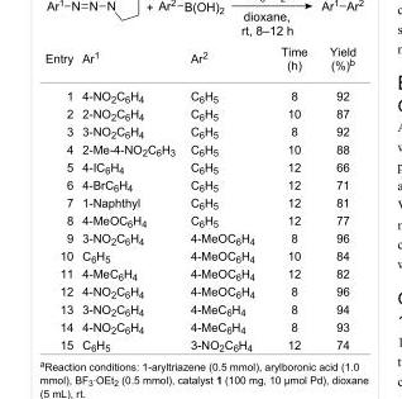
<table><tbody><tr><td>Entry</td><td>Ar<sup>1</sup></td><td>Ar<sup>2</sup></td><td>Time (h)</td><td>Yield (%)<sup>b</sup></td></tr><tr><td>1</td><td>4-NO<sub>2</sub>C<sub>6</sub>H<sub>4</sub></td><td>C<sub>6</sub>H<sub>5</sub></td><td>8</td><td>92</td></tr><tr><td>2</td><td>2-NO<sub>2</sub>C<sub>6</sub>H<sub>4</sub></td><td>C<sub>6</sub>H<sub>5</sub></td><td>10</td><td>87</td></tr><tr><td>3</td><td>3-NO<sub>2</sub>C<sub>6</sub>H<sub>4</sub></td><td>C<sub>6</sub>H<sub>5</sub></td><td>8</td><td>92</td></tr><tr><td>4</td><td>2-Me-4-NO<sub>2</sub>C<sub>6</sub>H<sub>3</sub></td><td>C<sub>6</sub>H<sub>5</sub></td><td>10</td><td>88</td></tr><tr><td>5</td><td>4-IC<sub>6</sub>H<sub>4</sub></td><td>C<sub>6</sub>H<sub>5</sub></td><td>12</td><td>66</td></tr><tr><td>6</td><td>4-BrC<sub>6</sub>H<sub>4</sub></td><td>C<sub>6</sub>H<sub>5</sub></td><td>12</td><td>71</td></tr><tr><td>7</td><td>1-Naphthyl</td><td>C<sub>6</sub>H<sub>5</sub></td><td>12</td><td>81</td></tr><tr><td>8</td><td>4-MeOC<sub>6</sub>H<sub>4</sub></td><td>C<sub>6</sub>H<sub>5</sub></td><td>12</td><td>77</td></tr><tr><td>9</td><td>3-NO<sub>2</sub>C<sub>6</sub>H<sub>4</sub></td><td>4-MeOC<sub>6</sub>H<sub>4</sub></td><td>8</td><td>96</td></tr><tr><td>10</td><td>C<sub>6</sub>H<sub>5</sub></td><td>4-MeOC<sub>6</sub>H<sub>4</sub></td><td>10</td><td>84</td></tr><tr><td>11</td><td>4-MeC<sub>6</sub>H<sub>4</sub></td><td>4-MeOC<sub>6</sub>H<sub>4</sub></td><td>12</td><td>82</td></tr><tr><td>12</td><td>4-NO<sub>2</sub>C<sub>6</sub>H<sub>4</sub></td><td>4-MeOC<sub>6</sub>H<sub>4</sub></td><td>8</td><td>96</td></tr><tr><td>13</td><td>3-NO<sub>2</sub>C<sub>6</sub>H<sub>4</sub></td><td>4-MeC<sub>6</sub>H<sub>4</sub></td><td>8</td><td>94</td></tr><tr><td>14</td><td>4-NO<sub>2</sub>C<sub>6</sub>H<sub>4</sub></td><td>4-MeC<sub>6</sub>H<sub>4</sub></td><td>8</td><td>93</td></tr><tr><td>15</td><td>C<sub>6</sub>H<sub>5</sub></td><td>3-NO<sub>2</sub>C<sub>6</sub>H<sub>4</sub></td><td>12</td><td>74</td></tr></tbody></table>